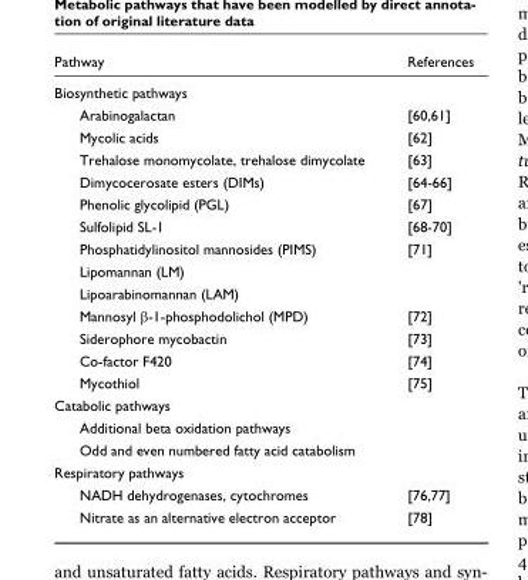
<table><thead><tr><td>Pathway</td><td>References</td></tr></thead><tbody><tr><td colspan="2">Biosynthetic pathways</td></tr><tr><td>Arabinogalactan</td><td>[60,61]</td></tr><tr><td>Mycolic acids</td><td>[62]</td></tr><tr><td>Trehalose monomycolate, trehalose dimycolate</td><td>[63]</td></tr><tr><td>Dimycocerosate esters (DIMs)</td><td>[64-66]</td></tr><tr><td>Phenolic glycolipid (PGL)</td><td>[67]</td></tr><tr><td>Sulfolipid SL-1</td><td>[68-70]</td></tr><tr><td>Phosphatidylinositol mannosides (PIMS)</td><td>[71]</td></tr><tr><td colspan="2">Lipomannan (LM)</td></tr><tr><td colspan="2">Lipoarabinomannan (LAM)</td></tr><tr><td>Mannosyl β-1-phosphodolichol (MPD)</td><td>[72]</td></tr><tr><td>Siderophore mycobactin</td><td>[73]</td></tr><tr><td>Co-factor F420</td><td>[74]</td></tr><tr><td>Mycothiol</td><td>[75]</td></tr><tr><td colspan="2">Catabolic pathways</td></tr><tr><td colspan="2">Additional beta oxidation pathways</td></tr><tr><td colspan="2">Odd and even numbered fatty acid catabolism</td></tr><tr><td colspan="2">Respiratory pathways</td></tr><tr><td>NADH dehydrogenases, cytochromes</td><td>[76,77]</td></tr><tr><td>Nitrate as an alternative electron acceptor</td><td>[78]</td></tr></tbody></table>